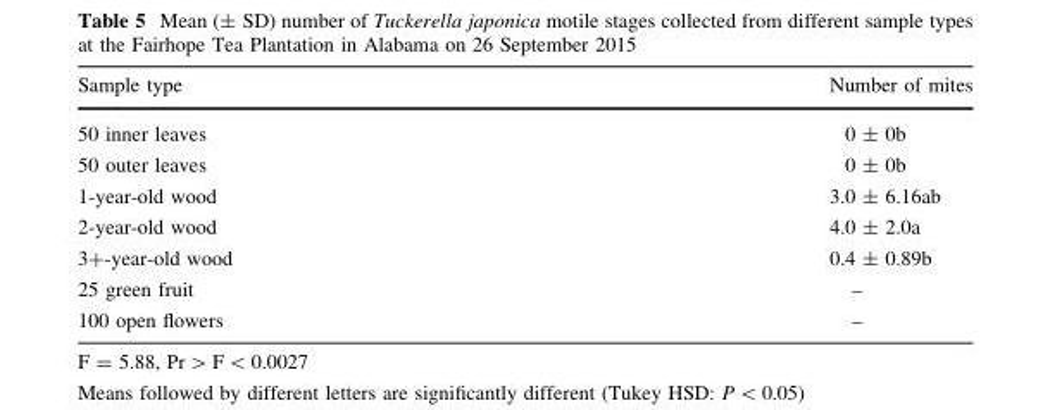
<table><thead><tr><td>Sample type</td><td>Number of mites</td></tr></thead><tbody><tr><td>50 inner leaves</td><td>0 ± 0b</td></tr><tr><td>50 outer leaves</td><td>0 ± 0b</td></tr><tr><td>1-year-old wood</td><td>3.0 ± 6.16ab</td></tr><tr><td>2-year-old wood</td><td>4.0 ± 2.0a</td></tr><tr><td>3+-year-old wood</td><td>0.4 ± 0.89b</td></tr><tr><td>25 green fruit</td><td>–</td></tr><tr><td>100 open flowers</td><td>–</td></tr></tbody></table>